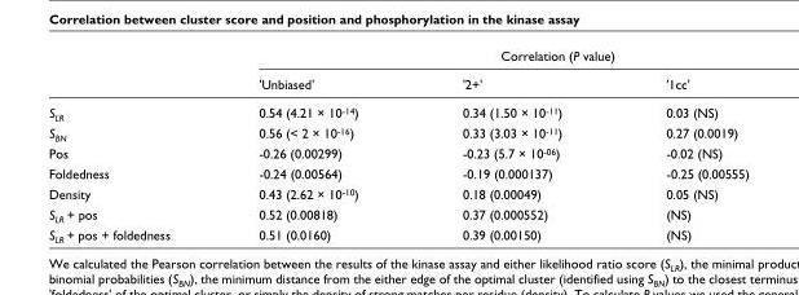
<table><thead><tr><td rowspan="2"></td><td colspan="3">Correlation (P value)</td></tr><tr><td>&#x27;Unbiased&#x27;</td><td>&#x27;2+&#x27;</td><td>&#x27;1cc&#x27;</td></tr></thead><tbody><tr><td>SLR</td><td>0.54 (4.21 × 10-14)</td><td>0.34 (1.50 × 10-11)</td><td>0.03 (NS)</td></tr><tr><td>SBN</td><td>0.56 (&lt; 2 × 10-16)</td><td>0.33 (3.03 × 10-11)</td><td>0.27 (0.0019)</td></tr><tr><td>Pos</td><td>-0.26 (0.00299)</td><td>-0.23 (5.7 × 10-06)</td><td>-0.02 (NS)</td></tr><tr><td>Foldedness</td><td>-0.24 (0.00564)</td><td>-0.19 (0.000137)</td><td>-0.25 (0.00555)</td></tr><tr><td>Density</td><td>0.43 (2.62 × 10-10)</td><td>0.18 (0.00049)</td><td>0.05 (NS)</td></tr><tr><td>SLR + pos</td><td>0.52 (0.00818)</td><td>0.37 (0.000552)</td><td>(NS)</td></tr><tr><td>SLR + pos + foldedness</td><td>0.51 (0.0160)</td><td>0.39 (0.00150)</td><td>(NS)</td></tr></tbody></table>